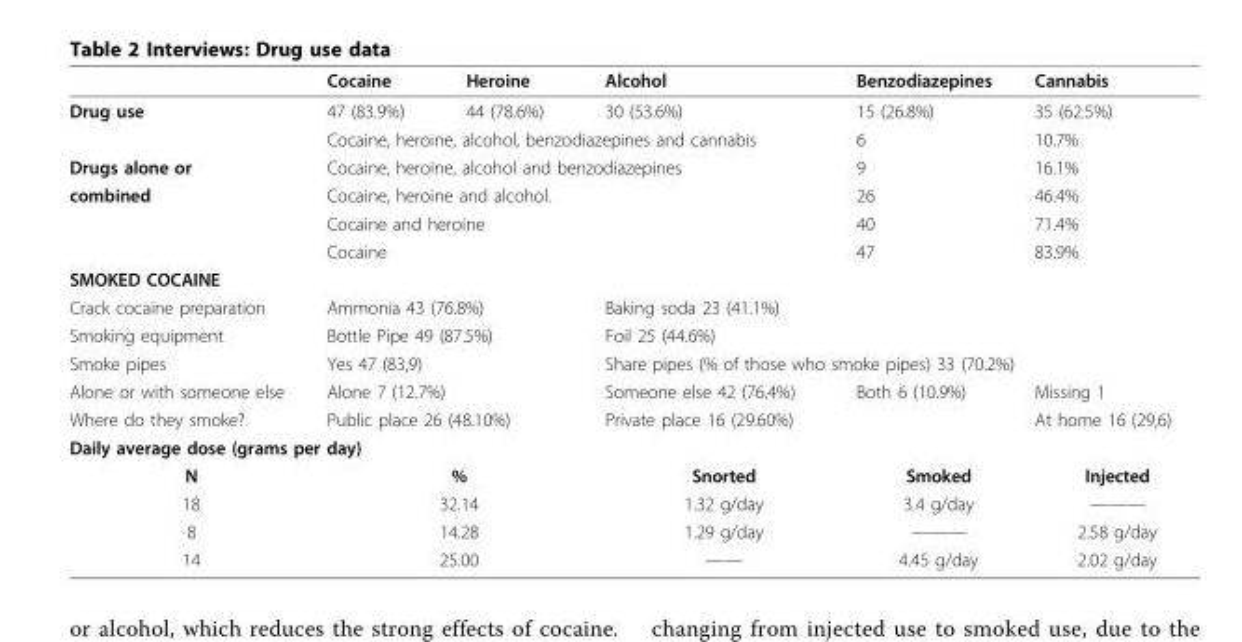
<table><thead><tr><td></td><td>Cocaine</td><td>Heroine</td><td>Alcohol</td><td>Benzodiazepines</td><td>Cannabis</td></tr></thead><tbody><tr><td rowspan="2">Drug use</td><td>47 (83.9%)</td><td>44 (78.6%)</td><td>30 (53.6%)</td><td>15 (26.8%)</td><td>35 (62.5%)</td></tr><tr><td colspan="3">Cocaine, heroine, alcohol, benzodiazepines and cannabis</td><td>6</td><td>10.7%</td></tr><tr><td>Drugs alone or</td><td colspan="3">Cocaine, heroine, alcohol and benzodiazepines</td><td>9</td><td>16.1%</td></tr><tr><td rowspan="3">combined</td><td colspan="3">Cocaine, heroine and alcohol.</td><td>26</td><td>46.4%</td></tr><tr><td colspan="3">Cocaine and heroine</td><td>40</td><td>71.4%</td></tr><tr><td colspan="3">Cocaine</td><td>47</td><td>83.9%</td></tr><tr><td colspan="6">SMOKED COCAINE</td></tr><tr><td>Crack cocaine preparation</td><td colspan="2">Ammonia 43 (76.8%)</td><td colspan="3">Baking soda 23 (41.1%)</td></tr><tr><td>Smoking equipment</td><td colspan="2">Bottle Pipe 49 (87.5%)</td><td colspan="3">Foil 25 (44.6%)</td></tr><tr><td>Smoke pipes</td><td colspan="2">Yes 47 (83,9)</td><td colspan="3">Share pipes (% of those who smoke pipes) 33 (70.2%)</td></tr><tr><td>Alone or with someone else</td><td colspan="2">Alone 7 (12.7%)</td><td>Someone else 42 (76.4%)</td><td>Both 6 (10.9%)</td><td>Missing 1</td></tr><tr><td>Where do they smoke?</td><td colspan="2">Public place 26 (48.10%)</td><td colspan="2">Private place 16 (29.60%)</td><td>At home 16 (29,6)</td></tr><tr><td colspan="6">Daily average dose (grams per day)</td></tr><tr><td>N</td><td colspan="2">%</td><td>Snorted</td><td>Smoked</td><td>Injected</td></tr><tr><td>18</td><td colspan="2">32.14</td><td>1.32 g/day</td><td>3.4 g/day</td><td>———</td></tr><tr><td>8</td><td colspan="2">14.28</td><td>1.29 g/day</td><td>———</td><td>2.58 g/day</td></tr><tr><td>14</td><td colspan="2">25.00</td><td>——</td><td>4.45 g/day</td><td>2.02 g/day</td></tr></tbody></table>